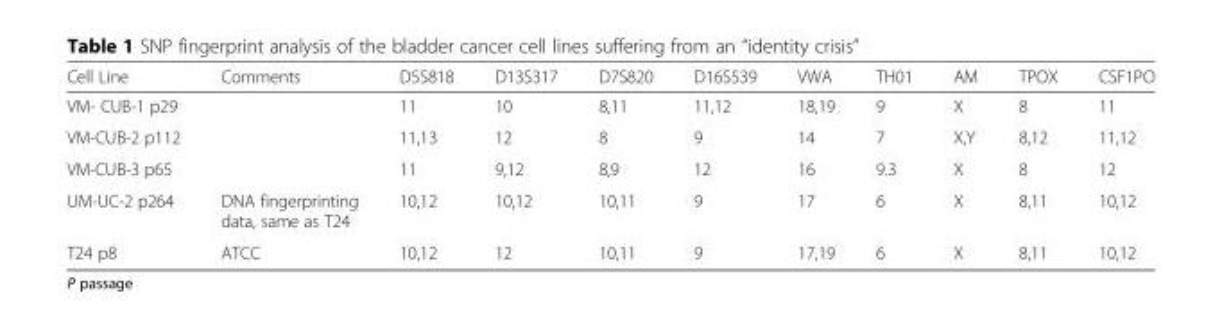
<table><thead><tr><td>Cell Line</td><td>Comments</td><td>D5S818</td><td>D13S317</td><td>D7S820</td><td>D16S539</td><td>VWA</td><td>TH01</td><td>AM</td><td>TPOX</td><td>CSF1PO</td></tr></thead><tbody><tr><td>VM- CUB-1 p29</td><td></td><td>11</td><td>10</td><td>8,11</td><td>11,12</td><td>18,19</td><td>9</td><td>X</td><td>8</td><td>11</td></tr><tr><td>VM-CUB-2 p112</td><td></td><td>11,13</td><td>12</td><td>8</td><td>9</td><td>14</td><td>7</td><td>X,Y</td><td>8,12</td><td>11,12</td></tr><tr><td>VM-CUB-3 p65</td><td></td><td>11</td><td>9,12</td><td>8,9</td><td>12</td><td>16</td><td>9.3</td><td>X</td><td>8</td><td>12</td></tr><tr><td>UM-UC-2 p264</td><td>DNA fingerprinting data, same as T24</td><td>10,12</td><td>10,12</td><td>10,11</td><td>9</td><td>17</td><td>6</td><td>X</td><td>8,11</td><td>10,12</td></tr><tr><td>T24 p8</td><td>ATCC</td><td>10,12</td><td>12</td><td>10,11</td><td>9</td><td>17,19</td><td>6</td><td>X</td><td>8,11</td><td>10,12</td></tr></tbody></table>